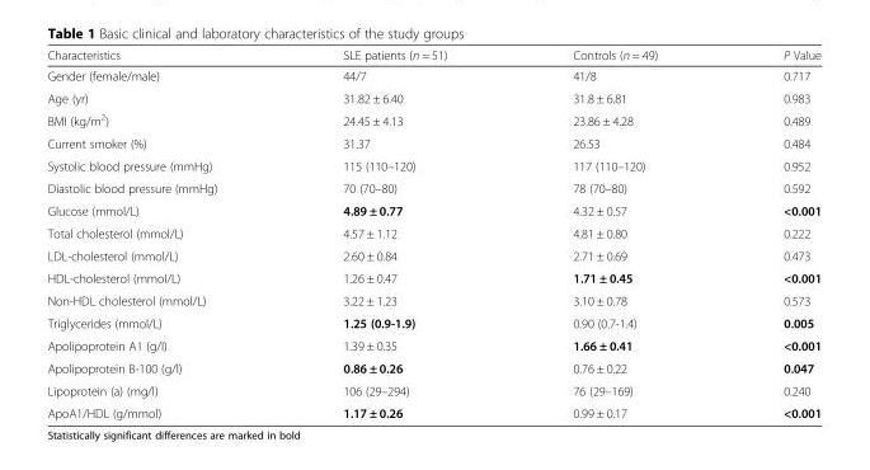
<table><thead><tr><td>Characteristics</td><td>SLE patients (n = 51)</td><td>Controls (n = 49)</td><td>P Value</td></tr></thead><tbody><tr><td>Gender (female/male)</td><td>44/7</td><td>41/8</td><td>0.717</td></tr><tr><td>Age (yr)</td><td>31.82 ± 6.40</td><td>31.8 ± 6.81</td><td>0.983</td></tr><tr><td>BMI (kg/m<sup>2</sup>)</td><td>24.45 ± 4.13</td><td>23.86 ± 4.28</td><td>0.489</td></tr><tr><td>Current smoker (%)</td><td>31.37</td><td>26.53</td><td>0.484</td></tr><tr><td>Systolic blood pressure (mmHg)</td><td>115 (110–120)</td><td>117 (110–120)</td><td>0.952</td></tr><tr><td>Diastolic blood pressure (mmHg)</td><td>70 (70–80)</td><td>78 (70–80)</td><td>0.592</td></tr><tr><td>Glucose (mmol/L)</td><td>4.89 ± 0.77</td><td>4.32 ± 0.57</td><td>&lt;0.001</td></tr><tr><td>Total cholesterol (mmol/L)</td><td>4.57 ± 1.12</td><td>4.81 ± 0.80</td><td>0.222</td></tr><tr><td>LDL-cholesterol (mmol/L)</td><td>2.60 ± 0.84</td><td>2.71 ± 0.69</td><td>0.473</td></tr><tr><td>HDL-cholesterol (mmol/L)</td><td>1.26 ± 0.47</td><td>1.71 ± 0.45</td><td>&lt;0.001</td></tr><tr><td>Non-HDL cholesterol (mmol/L)</td><td>3.22 ± 1.23</td><td>3.10 ± 0.78</td><td>0.573</td></tr><tr><td>Triglycerides (mmol/L)</td><td>1.25 (0.9-1.9)</td><td>0.90 (0.7-1.4)</td><td>0.005</td></tr><tr><td>Apolipoprotein A1 (g/l)</td><td>1.39 ± 0.35</td><td>1.66 ± 0.41</td><td>&lt;0.001</td></tr><tr><td>Apolipoprotein B-100 (g/l)</td><td>0.86 ± 0.26</td><td>0.76 ± 0.22</td><td>0.047</td></tr><tr><td>Lipoprotein (a) (mg/l)</td><td>106 (29–294)</td><td>76 (29–169)</td><td>0.240</td></tr><tr><td>ApoA1/HDL (g/mmol)</td><td>1.17 ± 0.26</td><td>0.99 ± 0.17</td><td>&lt;0.001</td></tr></tbody></table>